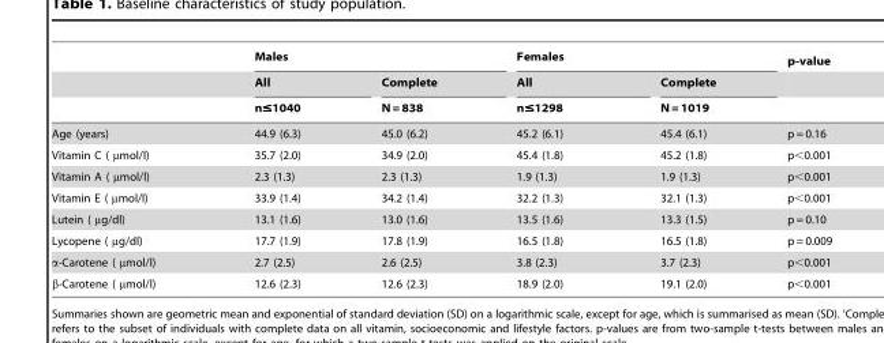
<table><thead><tr><td rowspan="3"></td><td colspan="2">Males</td><td colspan="2">Females</td><td rowspan="3">p-value</td></tr><tr><td rowspan="2">All n≤1040</td><td rowspan="2">Complete N = 838</td><td rowspan="2">All n≤1298</td><td rowspan="2">Complete N = 1019</td></tr><tr></tr></thead><tbody><tr><td>Age (years)</td><td>44.9 (6.3)</td><td>45.0 (6.2)</td><td>45.2 (6.1)</td><td>45.4 (6.1)</td><td>p = 0.16</td></tr><tr><td>Vitamin C ( µmol/l)</td><td>35.7 (2.0)</td><td>34.9 (2.0)</td><td>45.4 (1.8)</td><td>45.2 (1.8)</td><td>p&lt;0.001</td></tr><tr><td>Vitamin A ( µmol/l)</td><td>2.3 (1.3)</td><td>2.3 (1.3)</td><td>1.9 (1.3)</td><td>1.9 (1.3)</td><td>p&lt;0.001</td></tr><tr><td>Vitamin E ( µmol/l)</td><td>33.9 (1.4)</td><td>34.2 (1.4)</td><td>32.2 (1.3)</td><td>32.1 (1.3)</td><td>p&lt;0.001</td></tr><tr><td>Lutein ( µg/dl)</td><td>13.1 (1.6)</td><td>13.0 (1.6)</td><td>13.5 (1.6)</td><td>13.3 (1.5)</td><td>p = 0.10</td></tr><tr><td>Lycopene ( µg/dl)</td><td>17.7 (1.9)</td><td>17.8 (1.9)</td><td>16.5 (1.8)</td><td>16.5 (1.8)</td><td>p = 0.009</td></tr><tr><td>α-Carotene ( µmol/l)</td><td>2.7 (2.5)</td><td>2.6 (2.5)</td><td>3.8 (2.3)</td><td>3.7 (2.3)</td><td>p&lt;0.001</td></tr><tr><td>β-Carotene ( µmol/l)</td><td>12.6 (2.3)</td><td>12.6 (2.3)</td><td>18.9 (2.0)</td><td>19.1 (2.0)</td><td>p&lt;0.001</td></tr></tbody></table>